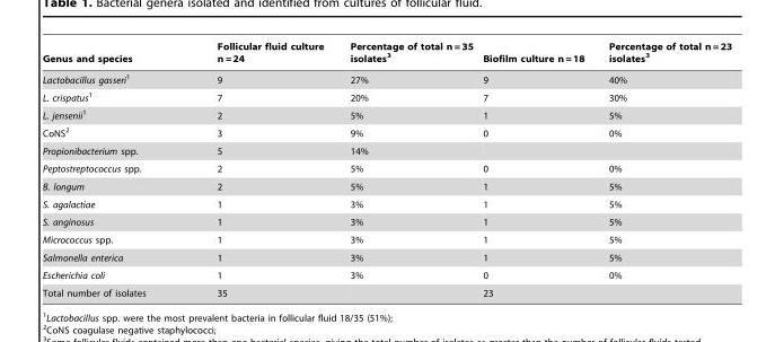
<table><thead><tr><td>Genus and species</td><td>Follicular fluid culture n = 24</td><td>Percentage of total n = 35 isolates<sup>3</sup></td><td>Biofilm culture n = 18</td><td>Percentage of total n = 23 isolates<sup>3</sup></td></tr></thead><tbody><tr><td>Lactobacillus gasseri1</td><td>9</td><td>27%</td><td>9</td><td>40%</td></tr><tr><td>L. crispatus1</td><td>7</td><td>20%</td><td>7</td><td>30%</td></tr><tr><td>L. jensenii1</td><td>2</td><td>5%</td><td>1</td><td>5%</td></tr><tr><td>CoNS<sup>2</sup></td><td>3</td><td>9%</td><td>0</td><td>0%</td></tr><tr><td>Propionibacterium spp.</td><td>5</td><td>14%</td><td></td><td></td></tr><tr><td>Peptostreptococcus spp.</td><td>2</td><td>5%</td><td>0</td><td>0%</td></tr><tr><td>B. longum</td><td>2</td><td>5%</td><td>1</td><td>5%</td></tr><tr><td>S. agalactiae</td><td>1</td><td>3%</td><td>1</td><td>5%</td></tr><tr><td>S. anginosus</td><td>1</td><td>3%</td><td>1</td><td>5%</td></tr><tr><td>Micrococcus spp.</td><td>1</td><td>3%</td><td>1</td><td>5%</td></tr><tr><td>Salmonella enterica</td><td>1</td><td>3%</td><td>1</td><td>5%</td></tr><tr><td>Escherichia coli</td><td>1</td><td>3%</td><td>0</td><td>0%</td></tr><tr><td>Total number of isolates</td><td>35</td><td></td><td>23</td><td></td></tr></tbody></table>